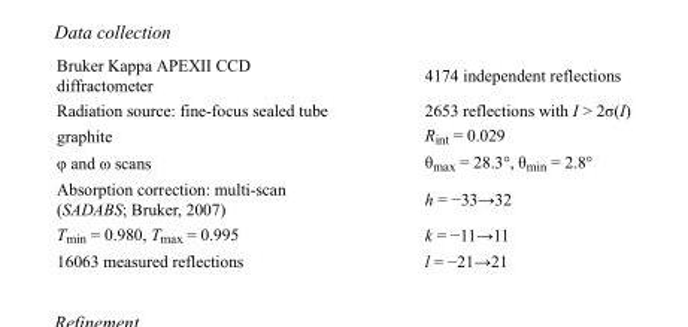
<table><tbody><tr><td>Bruker Kappa APEXII CCD diffractometer</td><td>4174 independent reflections</td></tr><tr><td>Radiation source: fine-focus sealed tube</td><td>2653 reflections with I &gt; 2σ(I)</td></tr><tr><td>graphite</td><td>R<sub>int</sub> = 0.029</td></tr><tr><td>φ and ω scans</td><td>θ<sub>max</sub> = 28.3°, θ<sub>min</sub> = 2.8°</td></tr><tr><td>Absorption correction: multi-scan (SADABS; Bruker, 2007)</td><td>h = −33→32</td></tr><tr><td>T<sub>min</sub> = 0.980, T<sub>max</sub> = 0.995</td><td>k = −11→11</td></tr><tr><td>16063 measured reflections</td><td>l = −21→21</td></tr></tbody></table>